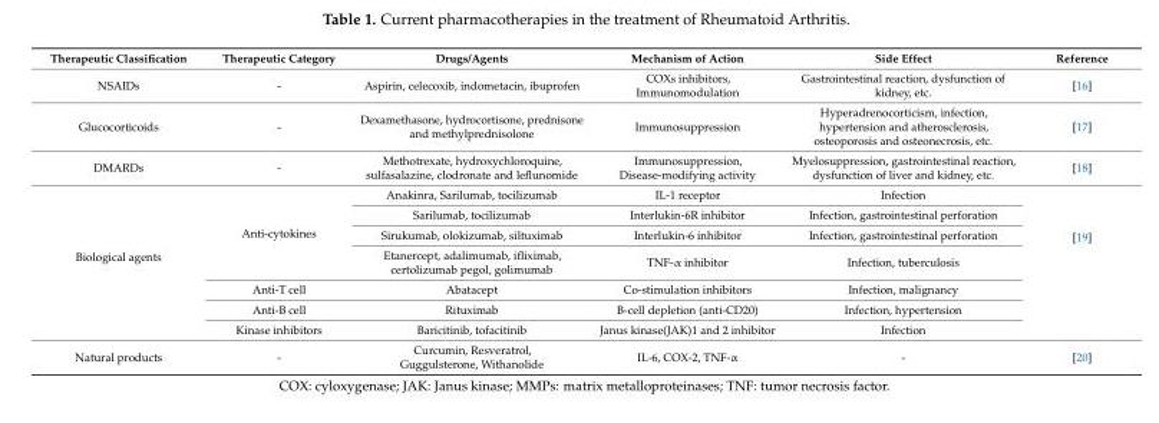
<table><thead><tr><td>Therapeutic Classification</td><td>Therapeutic Category</td><td>Drugs/Agents</td><td>Mechanism of Action</td><td>Side Effect</td><td>Reference</td></tr></thead><tbody><tr><td>NSAIDs</td><td>-</td><td>Aspirin, celecoxib, indometacin, ibuprofen</td><td>COXs inhibitors, Immunomodulation</td><td>Gastrointestinal reaction, dysfunction of kidney, etc.</td><td>[16]</td></tr><tr><td>Glucocorticoids</td><td>-</td><td>Dexamethasone, hydrocortisone, prednisone and methylprednisolone</td><td>Immunosuppression</td><td>Hyperadrenocorticism, infection, hypertension and atherosclerosis, osteoporosis and osteonecrosis, etc.</td><td>[17]</td></tr><tr><td>DMARDs</td><td>-</td><td>Methotrexate, hydroxychloroquine, sulfasalazine, clodronate and leflunomide</td><td>Immunosuppression, Disease-modifying activity</td><td>Myelosuppression, gastrointestinal reaction, dysfunction of liver and kidney, etc.</td><td>[18]</td></tr><tr><td rowspan="7">Biological agents</td><td rowspan="4">Anti-cytokines</td><td>Anakinra, Sarilumab, tocilizumab</td><td>IL-1 receptor</td><td>Infection</td><td rowspan="7">[19]</td></tr><tr><td>Sarilumab, tocilizumab</td><td>Interlukin-6R inhibitor</td><td>Infection, gastrointestinal perforation</td></tr><tr><td>Sirukumab, olokizumab, siltuximab</td><td>Interlukin-6 inhibitor</td><td>Infection, gastrointestinal perforation</td></tr><tr><td>Etanercept, adalimumab, ifliximab, certolizumab pegol, golimumab</td><td>TNF-α inhibitor</td><td>Infection, tuberculosis</td></tr><tr><td>Anti-T cell</td><td>Abatacept</td><td>Co-stimulation inhibitors</td><td>Infection, malignancy</td></tr><tr><td>Anti-B cell</td><td>Rituximab</td><td>B-cell depletion (anti-CD20)</td><td>Infection, hypertension</td></tr><tr><td>Kinase inhibitors</td><td>Baricitinib, tofacitinib</td><td>Janus kinase(JAK)1 and 2 inhibitor</td><td>Infection</td></tr><tr><td>Natural products</td><td>-</td><td>Curcumin, Resveratrol, Guggulsterone, Withanolide</td><td>IL-6, COX-2, TNF-α</td><td>-</td><td>[20]</td></tr></tbody></table>